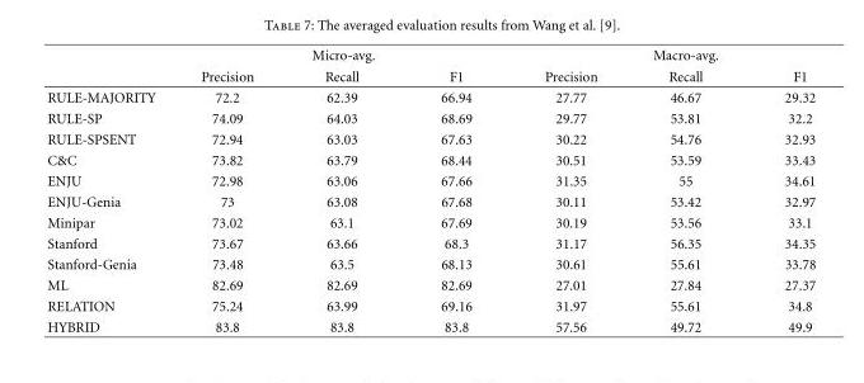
<table><thead><tr><td rowspan="2"></td><td colspan="3">Micro-avg.</td><td colspan="3">Macro-avg.</td></tr><tr><td>Precision</td><td>Recall</td><td>F1</td><td>Precision</td><td>Recall</td><td>F1</td></tr></thead><tbody><tr><td>RULE-MAJORITY</td><td>72.2</td><td>62.39</td><td>66.94</td><td>27.77</td><td>46.67</td><td>29.32</td></tr><tr><td>RULE-SP</td><td>74.09</td><td>64.03</td><td>68.69</td><td>29.77</td><td>53.81</td><td>32.2</td></tr><tr><td>RULE-SPSENT</td><td>72.94</td><td>63.03</td><td>67.63</td><td>30.22</td><td>54.76</td><td>32.93</td></tr><tr><td>C&amp;C</td><td>73.82</td><td>63.79</td><td>68.44</td><td>30.51</td><td>53.59</td><td>33.43</td></tr><tr><td>ENJU</td><td>72.98</td><td>63.06</td><td>67.66</td><td>31.35</td><td>55</td><td>34.61</td></tr><tr><td>ENJU-Genia</td><td>73</td><td>63.08</td><td>67.68</td><td>30.11</td><td>53.42</td><td>32.97</td></tr><tr><td>Minipar</td><td>73.02</td><td>63.1</td><td>67.69</td><td>30.19</td><td>53.56</td><td>33.1</td></tr><tr><td>Stanford</td><td>73.67</td><td>63.66</td><td>68.3</td><td>31.17</td><td>56.35</td><td>34.35</td></tr><tr><td>Stanford-Genia</td><td>73.48</td><td>63.5</td><td>68.13</td><td>30.61</td><td>55.61</td><td>33.78</td></tr><tr><td>ML</td><td>82.69</td><td>82.69</td><td>82.69</td><td>27.01</td><td>27.84</td><td>27.37</td></tr><tr><td>RELATION</td><td>75.24</td><td>63.99</td><td>69.16</td><td>31.97</td><td>55.61</td><td>34.8</td></tr><tr><td>HYBRID</td><td>83.8</td><td>83.8</td><td>83.8</td><td>57.56</td><td>49.72</td><td>49.9</td></tr></tbody></table>